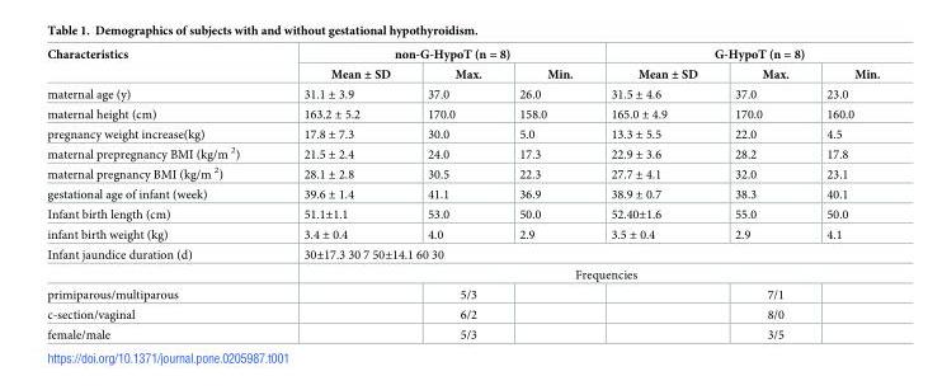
<table><thead><tr><td rowspan="2">Characteristics</td><td colspan="3">non-G-HypoT (n = 8)</td><td colspan="3">G-HypoT (n = 8)</td></tr><tr><td>Mean ± SD</td><td>Max.</td><td>Min.</td><td>Mean ± SD</td><td>Max.</td><td>Min.</td></tr></thead><tbody><tr><td>maternal age (y)</td><td>31.1 ± 3.9</td><td>37.0</td><td>26.0</td><td>31.5 ± 4.6</td><td>37.0</td><td>23.0</td></tr><tr><td>maternal height (cm)</td><td>163.2 ± 5.2</td><td>170.0</td><td>158.0</td><td>165.0 ± 4.9</td><td>170.0</td><td>160.0</td></tr><tr><td>pregnancy weight increase(kg)</td><td>17.8 ± 7.3</td><td>30.0</td><td>5.0</td><td>13.3 ± 5.5</td><td>22.0</td><td>4.5</td></tr><tr><td>maternal prepregnancy BMI (kg/m <sup>2</sup>)</td><td>21.5 ± 2.4</td><td>24.0</td><td>17.3</td><td>22.9 ± 3.6</td><td>28.2</td><td>17.8</td></tr><tr><td>maternal pregnancy BMI (kg/m <sup>2</sup>)</td><td>28.1 ± 2.8</td><td>30.5</td><td>22.3</td><td>27.7 ± 4.1</td><td>32.0</td><td>23.1</td></tr><tr><td>gestational age of infant (week)</td><td>39.6 ± 1.4</td><td>41.1</td><td>36.9</td><td>38.9 ± 0.7</td><td>38.3</td><td>40.1</td></tr><tr><td>Infant birth length (cm)</td><td>51.1±1.1</td><td>53.0</td><td>50.0</td><td>52.40±1.6</td><td>55.0</td><td>50.0</td></tr><tr><td>infant birth weight (kg)</td><td>3.4 ± 0.4</td><td>4.0</td><td>2.9</td><td>3.5 ± 0.4</td><td>2.9</td><td>4.1</td></tr><tr><td rowspan="2">Infant jaundice duration (d)</td><td colspan="6">30±17.3 30 7 50±14.1 60 30</td></tr><tr><td colspan="6">Frequencies</td></tr><tr><td>primiparous/multiparous</td><td></td><td>5/3</td><td></td><td></td><td>7/1</td><td></td></tr><tr><td>c-section/vaginal</td><td></td><td>6/2</td><td></td><td></td><td>8/0</td><td></td></tr><tr><td>female/male</td><td></td><td>5/3</td><td></td><td></td><td>3/5</td><td></td></tr></tbody></table>